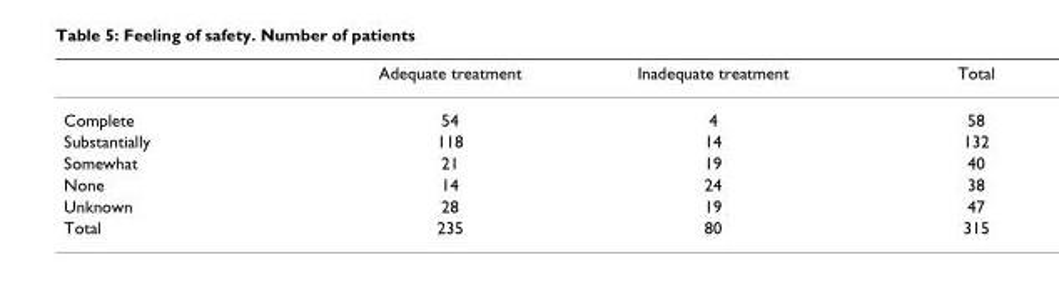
<table><thead><tr><td></td><td>Adequate treatment</td><td>Inadequate treatment</td><td>Total</td></tr></thead><tbody><tr><td>Complete</td><td>54</td><td>4</td><td>58</td></tr><tr><td>Substantially</td><td>118</td><td>14</td><td>132</td></tr><tr><td>Somewhat</td><td>21</td><td>19</td><td>40</td></tr><tr><td>None</td><td>14</td><td>24</td><td>38</td></tr><tr><td>Unknown</td><td>28</td><td>19</td><td>47</td></tr><tr><td>Total</td><td>235</td><td>80</td><td>315</td></tr></tbody></table>